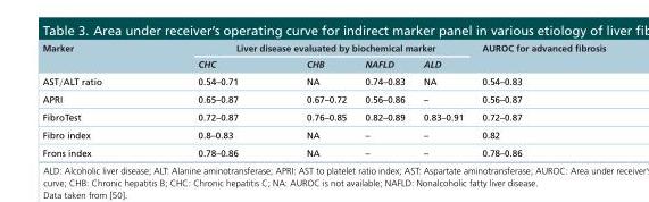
<table><thead><tr><td rowspan="2">Marker</td><td colspan="4">Liver disease evaluated by biochemical marker</td><td rowspan="2">AUROC for advanced fibrosis</td></tr><tr><td>CHC</td><td>CHB</td><td>NAFLD</td><td>ALD</td></tr></thead><tbody><tr><td>AST/ALT ratio</td><td>0.54–0.71</td><td>NA</td><td>0.74–0.83</td><td>NA</td><td>0.54–0.83</td></tr><tr><td>APRI</td><td>0.65–0.87</td><td>0.67–0.72</td><td>0.56–0.86</td><td>–</td><td>0.56–0.87</td></tr><tr><td>FibroTest</td><td>0.72–0.87</td><td>0.76–0.85</td><td>0.82–0.89</td><td>0.83–0.91</td><td>0.72–0.87</td></tr><tr><td>Fibro index</td><td>0.8–0.83</td><td>NA</td><td>–</td><td>–</td><td>0.82</td></tr><tr><td>Frons index</td><td>0.78–0.86</td><td>NA</td><td>–</td><td>–</td><td>0.78–0.86</td></tr></tbody></table>